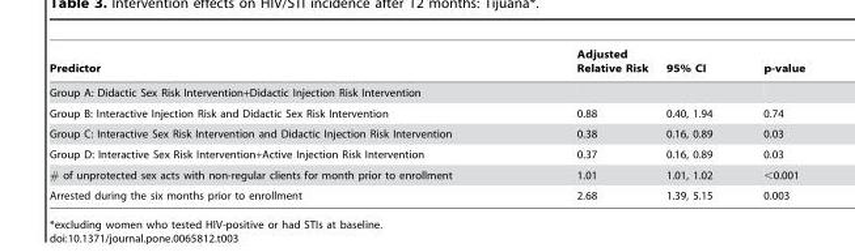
<table><thead><tr><td>Predictor</td><td>Adjusted Relative Risk</td><td>95% CI</td><td>p-value</td></tr></thead><tbody><tr><td colspan="4">Group A: Didactic Sex Risk Intervention+Didactic Injection Risk Intervention</td></tr><tr><td>Group B: Interactive Injection Risk and Didactic Sex Risk Intervention</td><td>0.88</td><td>0.40, 1.94</td><td>0.74</td></tr><tr><td>Group C: Interactive Sex Risk Intervention and Didactic Injection Risk Intervention</td><td>0.38</td><td>0.16, 0.89</td><td>0.03</td></tr><tr><td>Group D: Interactive Sex Risk Intervention+Active Injection Risk Intervention</td><td>0.37</td><td>0.16, 0.89</td><td>0.03</td></tr><tr><td># of unprotected sex acts with non-regular clients for month prior to enrollment</td><td>1.01</td><td>1.01, 1.02</td><td>&lt;0.001</td></tr><tr><td>Arrested during the six months prior to enrollment</td><td>2.68</td><td>1.39, 5.15</td><td>0.003</td></tr></tbody></table>